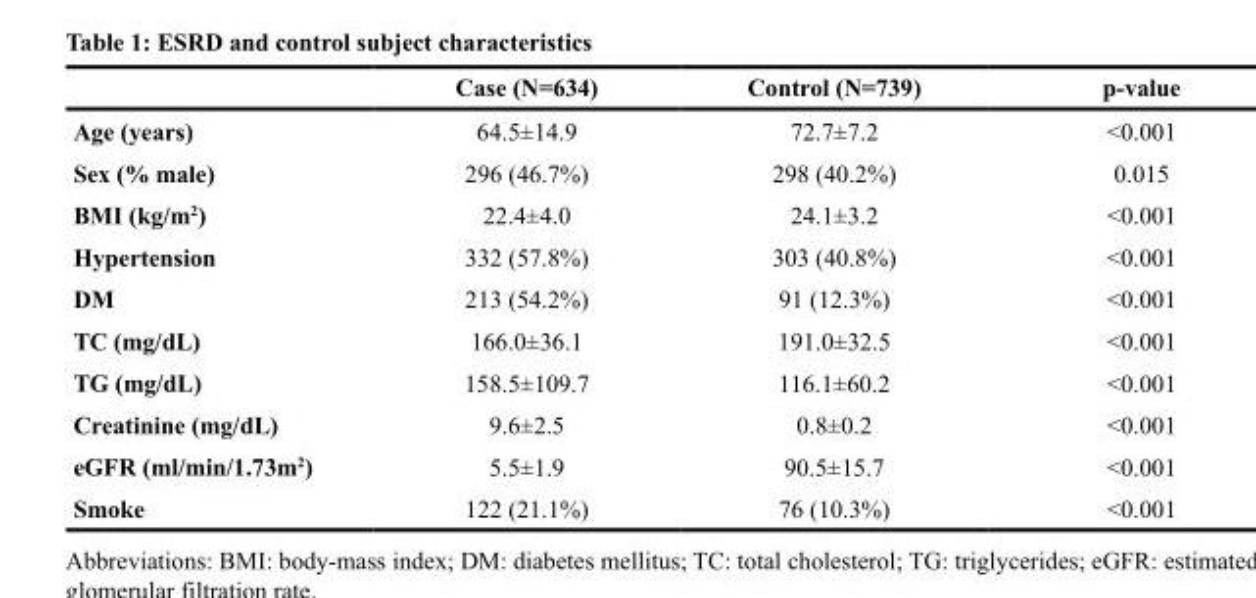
<table><thead><tr><td></td><td>Case (N=634)</td><td>Control (N=739)</td><td>p-value</td></tr></thead><tbody><tr><td>Age (years)</td><td>64.5±14.9</td><td>72.7±7.2</td><td>&lt;0.001</td></tr><tr><td>Sex (% male)</td><td>296 (46.7%)</td><td>298 (40.2%)</td><td>0.015</td></tr><tr><td>BMI (kg/m<sup>2</sup>)</td><td>22.4±4.0</td><td>24.1±3.2</td><td>&lt;0.001</td></tr><tr><td>Hypertension</td><td>332 (57.8%)</td><td>303 (40.8%)</td><td>&lt;0.001</td></tr><tr><td>DM</td><td>213 (54.2%)</td><td>91 (12.3%)</td><td>&lt;0.001</td></tr><tr><td>TC (mg/dL)</td><td>166.0±36.1</td><td>191.0±32.5</td><td>&lt;0.001</td></tr><tr><td>TG (mg/dL)</td><td>158.5±109.7</td><td>116.1±60.2</td><td>&lt;0.001</td></tr><tr><td>Creatinine (mg/dL)</td><td>9.6±2.5</td><td>0.8±0.2</td><td>&lt;0.001</td></tr><tr><td>eGFR (ml/min/1.73m<sup>2</sup>)</td><td>5.5±1.9</td><td>90.5±15.7</td><td>&lt;0.001</td></tr><tr><td>Smoke</td><td>122 (21.1%)</td><td>76 (10.3%)</td><td>&lt;0.001</td></tr></tbody></table>